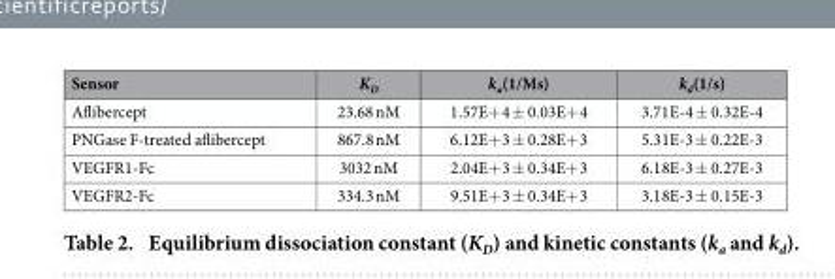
<table><thead><tr><td>Sensor</td><td>K<sub>D</sub></td><td>k<sub>a</sub>(1/Ms)</td><td>k<sub>d</sub>(1/s)</td></tr></thead><tbody><tr><td>Aflibercept</td><td>23.68 nM</td><td>1.57E+ 4 ± 0.03E+ 4</td><td>3.71E-4 ± 0.32E-4</td></tr><tr><td>PNGase F-treated aflibercept</td><td>867.8 nM</td><td>6.12E+ 3 ± 0.28E+ 3</td><td>5.31E-3 ± 0.22E-3</td></tr><tr><td>VEGFR1-Fc</td><td>3032 nM</td><td>2.04E+ 3 ± 0.34E+ 3</td><td>6.18E-3 ± 0.27E-3</td></tr><tr><td>VEGFR2-Fc</td><td>334.3 nM</td><td>9.51E+ 3 ± 0.34E+ 3</td><td>3.18E-3 ± 0.15E-3</td></tr></tbody></table>